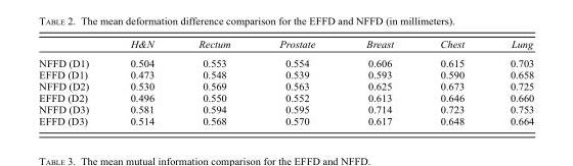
<table><thead><tr><td></td><td>H&amp;N</td><td>Rectum</td><td>Prostate</td><td>Breast</td><td>Chest</td><td>Lung</td></tr></thead><tbody><tr><td>NFFD (D1)</td><td>0.504</td><td>0.553</td><td>0.554</td><td>0.606</td><td>0.615</td><td>0.703</td></tr><tr><td>EFFD (D1)</td><td>0.473</td><td>0.548</td><td>0.539</td><td>0.593</td><td>0.590</td><td>0.658</td></tr><tr><td>NFFD (D2)</td><td>0.530</td><td>0.569</td><td>0.563</td><td>0.625</td><td>0.673</td><td>0.725</td></tr><tr><td>EFFD (D2)</td><td>0.496</td><td>0.550</td><td>0.552</td><td>0.613</td><td>0.646</td><td>0.660</td></tr><tr><td>NFFD (D3)</td><td>0.581</td><td>0.594</td><td>0.595</td><td>0.714</td><td>0.723</td><td>0.753</td></tr><tr><td>EFFD (D3)</td><td>0.514</td><td>0.568</td><td>0.570</td><td>0.617</td><td>0.648</td><td>0.664</td></tr></tbody></table>